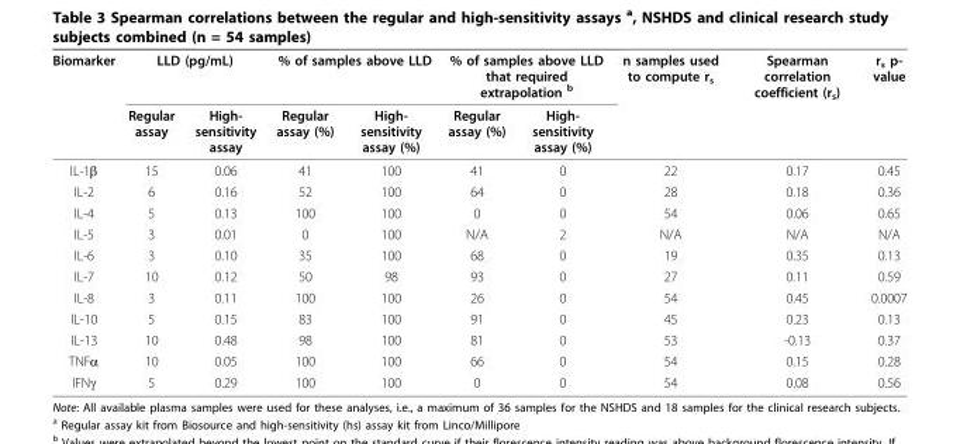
<table><thead><tr><td rowspan="2">Biomarker</td><td colspan="2">LLD (pg/mL)</td><td colspan="2">% of samples above LLD</td><td colspan="2">% of samples above LLD that required extrapolation <sup>b</sup></td><td rowspan="2">n samples used to compute r<sub>s</sub></td><td rowspan="2">Spearman correlation coefficient (r<sub>s</sub>)</td><td rowspan="2">r<sub>s</sub> p- value</td></tr><tr><td>Regular assay</td><td>High- sensitivity assay</td><td>Regular assay (%)</td><td>High- sensitivity assay (%)</td><td>Regular assay (%)</td><td>High- sensitivity assay (%)</td></tr></thead><tbody><tr><td>IL-1β</td><td>15</td><td>0.06</td><td>41</td><td>100</td><td>41</td><td>0</td><td>22</td><td>0.17</td><td>0.45</td></tr><tr><td>IL-2</td><td>6</td><td>0.16</td><td>52</td><td>100</td><td>64</td><td>0</td><td>28</td><td>0.18</td><td>0.36</td></tr><tr><td>IL-4</td><td>5</td><td>0.13</td><td>100</td><td>100</td><td>0</td><td>0</td><td>54</td><td>0.06</td><td>0.65</td></tr><tr><td>IL-5</td><td>3</td><td>0.01</td><td>0</td><td>100</td><td>N/A</td><td>2</td><td>N/A</td><td>N/A</td><td>N/A</td></tr><tr><td>IL-6</td><td>3</td><td>0.10</td><td>35</td><td>100</td><td>68</td><td>0</td><td>19</td><td>0.35</td><td>0.13</td></tr><tr><td>IL-7</td><td>10</td><td>0.12</td><td>50</td><td>98</td><td>93</td><td>0</td><td>27</td><td>0.11</td><td>0.59</td></tr><tr><td>IL-8</td><td>3</td><td>0.11</td><td>100</td><td>100</td><td>26</td><td>0</td><td>54</td><td>0.45</td><td>0.0007</td></tr><tr><td>IL-10</td><td>5</td><td>0.15</td><td>83</td><td>100</td><td>91</td><td>0</td><td>45</td><td>0.23</td><td>0.13</td></tr><tr><td>IL-13</td><td>10</td><td>0.48</td><td>98</td><td>100</td><td>81</td><td>0</td><td>53</td><td>-0.13</td><td>0.37</td></tr><tr><td>TNFα</td><td>10</td><td>0.05</td><td>100</td><td>100</td><td>66</td><td>0</td><td>54</td><td>0.15</td><td>0.28</td></tr><tr><td>IFNγ</td><td>5</td><td>0.29</td><td>100</td><td>100</td><td>0</td><td>0</td><td>54</td><td>0.08</td><td>0.56</td></tr></tbody></table>